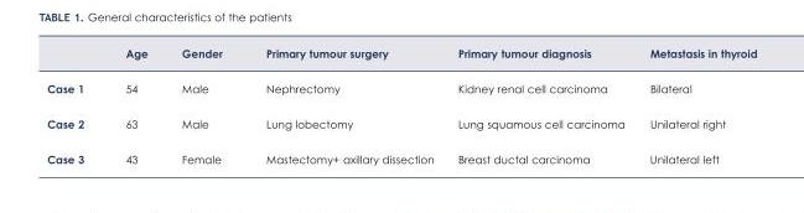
<table><thead><tr><td></td><td>Age</td><td>Gender</td><td>Primary tumour surgery</td><td>Primary tumour diagnosis</td><td>Metastasis in thyroid</td></tr></thead><tbody><tr><td>Case 1</td><td>54</td><td>Male</td><td>Nephrectomy</td><td>Kidney renal cell carcinoma</td><td>Bilateral</td></tr><tr><td>Case 2</td><td>63</td><td>Male</td><td>Lung lobectomy</td><td>Lung squamous cell carcinoma</td><td>Unilateral right</td></tr><tr><td>Case 3</td><td>43</td><td>Female</td><td>Mastectomy+ axillary dissection</td><td>Breast ductal carcinoma</td><td>Unilateral left</td></tr></tbody></table>